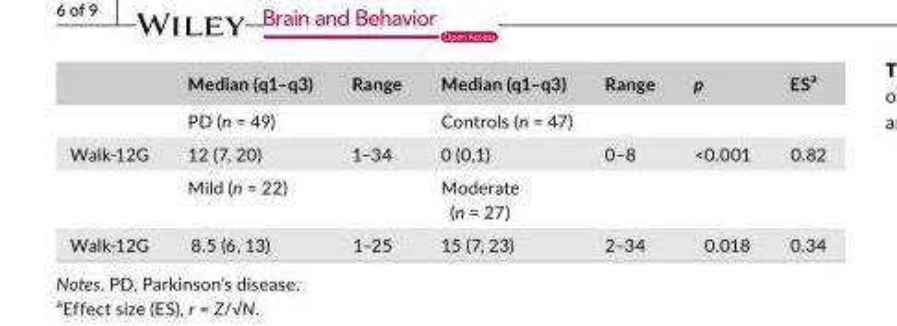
<table><thead><tr><td></td><td>Median (q1–q3)</td><td>Range</td><td>Median (q1–q3)</td><td>Range</td><td>p</td><td>ES<sup>a</sup></td></tr></thead><tbody><tr><td></td><td>PD (n = 49)</td><td></td><td>Controls (n = 47)</td><td></td><td></td><td></td></tr><tr><td rowspan="2">Walk- 12G</td><td>12 (7, 20)</td><td>1–34</td><td>0 (0,1)</td><td>0–8</td><td>&lt;0.001</td><td>0.82</td></tr><tr><td>Mild (n = 22)</td><td></td><td>Moderate (n = 27)</td><td></td><td></td><td></td></tr><tr><td>Walk- 12G</td><td>8.5 (6, 13)</td><td>1–25</td><td>15 (7, 23)</td><td>2–34</td><td>0.018</td><td>0.34</td></tr></tbody></table>